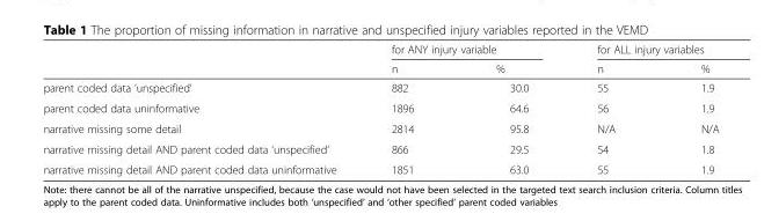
<table><thead><tr><td rowspan="2"></td><td colspan="2">for ANY injury variable</td><td colspan="2">for ALL injury variables</td></tr><tr><td>n</td><td>%</td><td>n</td><td>%</td></tr></thead><tbody><tr><td>parent coded data ‘unspecified’</td><td>882</td><td>30.0</td><td>55</td><td>1.9</td></tr><tr><td>parent coded data uninformative</td><td>1896</td><td>64.6</td><td>56</td><td>1.9</td></tr><tr><td>narrative missing some detail</td><td>2814</td><td>95.8</td><td>N/A</td><td>N/A</td></tr><tr><td>narrative missing detail AND parent coded data ‘unspecified’</td><td>866</td><td>29.5</td><td>54</td><td>1.8</td></tr><tr><td>narrative missing detail AND parent coded data uninformative</td><td>1851</td><td>63.0</td><td>55</td><td>1.9</td></tr></tbody></table>